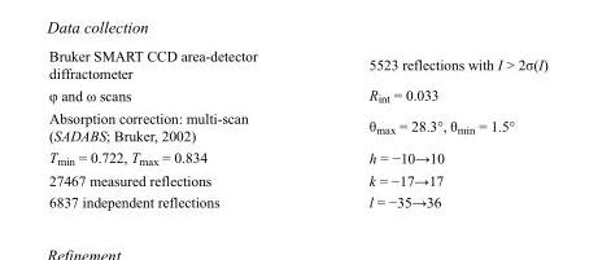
<table><tbody><tr><td>Bruker SMART CCD area-detector diffractometer</td><td>5523 reflections with I &gt; 2σ(I)</td></tr><tr><td>φ and ω scans</td><td>R<sub>int</sub> = 0.033</td></tr><tr><td>Absorption correction: multi-scan (SADABS; Bruker, 2002)</td><td>θ<sub>max</sub> = 28.3°, θ<sub>min</sub> = 1.5°</td></tr><tr><td>T<sub>min</sub> = 0.722, T<sub>max</sub> = 0.834</td><td>h = −10→10</td></tr><tr><td>27467 measured reflections</td><td>k = −17→17</td></tr><tr><td>6837 independent reflections</td><td>l = −35→36</td></tr></tbody></table>